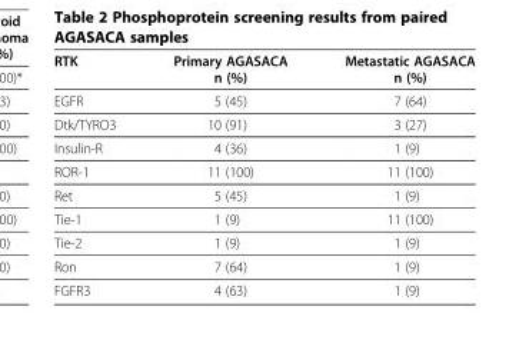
<table><thead><tr><td>RTK</td><td>Primary AGASACA n (%)</td><td>Metastatic AGASACA n (%)</td></tr></thead><tbody><tr><td>EGFR</td><td>5 (45)</td><td>7 (64)</td></tr><tr><td>Dtk/TYRO3</td><td>10 (91)</td><td>3 (27)</td></tr><tr><td>Insulin-R</td><td>4 (36)</td><td>1 (9)</td></tr><tr><td>ROR-1</td><td>11 (100)</td><td>11 (100)</td></tr><tr><td>Ret</td><td>5 (45)</td><td>1 (9)</td></tr><tr><td>Tie-1</td><td>1 (9)</td><td>11 (100)</td></tr><tr><td>Tie-2</td><td>1 (9)</td><td>1 (9)</td></tr><tr><td>Ron</td><td>7 (64)</td><td>1 (9)</td></tr><tr><td>FGFR3</td><td>4 (63)</td><td>1 (9)</td></tr></tbody></table>